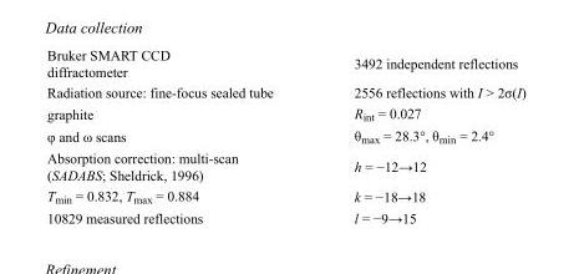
<table><tbody><tr><td>Bruker SMART CCD diffractometer</td><td>3492 independent reflections</td></tr><tr><td>Radiation source: fine-focus sealed tube</td><td>2556 reflections with I &gt; 2σ(I)</td></tr><tr><td>graphite</td><td>R<sub>int</sub> = 0.027</td></tr><tr><td>φ and ω scans</td><td>θ<sub>max</sub> = 28.3°, θ<sub>min</sub> = 2.4°</td></tr><tr><td>Absorption correction: multi-scan (SADABS; Sheldrick, 1996)</td><td>h = −12→12</td></tr><tr><td>T<sub>min</sub> = 0.832, T<sub>max</sub> = 0.884</td><td>k = −18→18</td></tr><tr><td>10829 measured reflections</td><td>l = −9→15</td></tr></tbody></table>